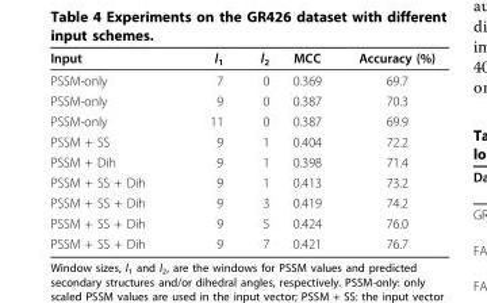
<table><thead><tr><td>Input</td><td>l<sub>1</sub></td><td>l<sub>2</sub></td><td>MCC</td><td>Accuracy (%)</td></tr></thead><tbody><tr><td>PSSM-only</td><td>7</td><td>0</td><td>0.369</td><td>69.7</td></tr><tr><td>PSSM-only</td><td>9</td><td>0</td><td>0.387</td><td>70.3</td></tr><tr><td>PSSM-only</td><td>11</td><td>0</td><td>0.387</td><td>69.9</td></tr><tr><td>PSSM + SS</td><td>9</td><td>1</td><td>0.404</td><td>72.2</td></tr><tr><td>PSSM + Dih</td><td>9</td><td>1</td><td>0.398</td><td>71.4</td></tr><tr><td>PSSM + SS + Dih</td><td>9</td><td>1</td><td>0.413</td><td>73.2</td></tr><tr><td>PSSM + SS + Dih</td><td>9</td><td>3</td><td>0.419</td><td>74.2</td></tr><tr><td>PSSM + SS + Dih</td><td>9</td><td>5</td><td>0.424</td><td>76.0</td></tr><tr><td>PSSM + SS + Dih</td><td>9</td><td>7</td><td>0.421</td><td>76.7</td></tr></tbody></table>